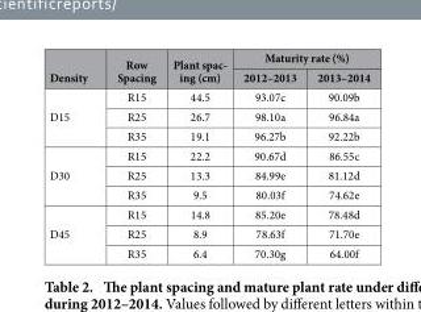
<table><thead><tr><td rowspan="2">Density</td><td rowspan="2">Row Spacing</td><td rowspan="2">Plant spac- ing (cm)</td><td colspan="2">Maturity rate (%)</td></tr><tr><td>2012–2013</td><td>2013–2014</td></tr></thead><tbody><tr><td rowspan="3">D15</td><td>R15</td><td>44.5</td><td>93.07c</td><td>90.09b</td></tr><tr><td>R25</td><td>26.7</td><td>98.10a</td><td>96.84a</td></tr><tr><td>R35</td><td>19.1</td><td>96.27b</td><td>92.22b</td></tr><tr><td rowspan="3">D30</td><td>R15</td><td>22.2</td><td>90.67d</td><td>86.55c</td></tr><tr><td>R25</td><td>13.3</td><td>84.99e</td><td>81.12d</td></tr><tr><td>R35</td><td>9.5</td><td>80.03f</td><td>74.62e</td></tr><tr><td rowspan="3">D45</td><td>R15</td><td>14.8</td><td>85.20e</td><td>78.48d</td></tr><tr><td>R25</td><td>8.9</td><td>78.63f</td><td>71.70e</td></tr><tr><td>R35</td><td>6.4</td><td>70.30g</td><td>64.00f</td></tr></tbody></table>